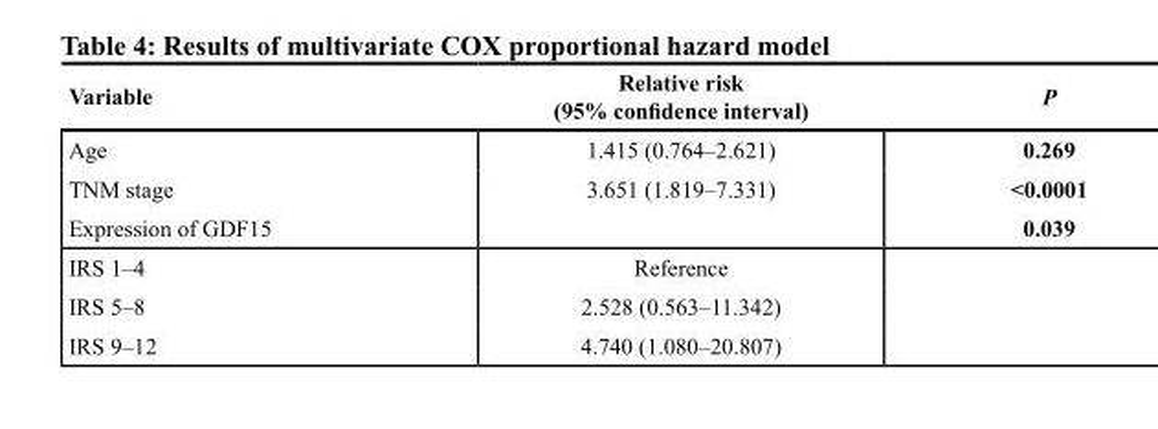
<table><thead><tr><td>Variable</td><td>Relative risk (95% confidence interval)</td><td>P</td></tr></thead><tbody><tr><td>Age</td><td>1.415 (0.764–2.621)</td><td>0.269</td></tr><tr><td>TNM stage</td><td>3.651 (1.819–7.331)</td><td>&lt;0.0001</td></tr><tr><td>Expression of GDF15</td><td></td><td>0.039</td></tr><tr><td>IRS 1–4</td><td>Reference</td><td></td></tr><tr><td>IRS 5–8</td><td>2.528 (0.563–11.342)</td><td></td></tr><tr><td>IRS 9–12</td><td>4.740 (1.080–20.807)</td><td></td></tr></tbody></table>